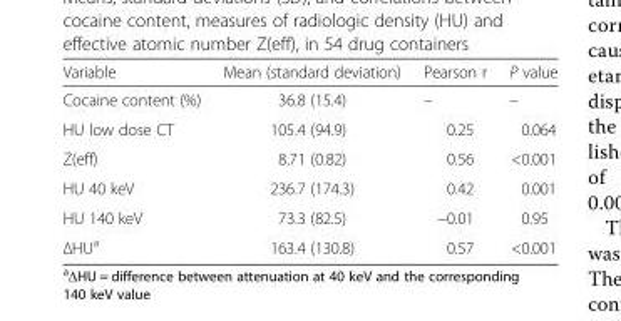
<table><thead><tr><td>Variable</td><td>Mean (standard deviation)</td><td>Pearson r</td><td>P value</td></tr></thead><tbody><tr><td>Cocaine content (%)</td><td>36.8 (15.4)</td><td>–</td><td>–</td></tr><tr><td>HU low dose CT</td><td>105.4 (94.9)</td><td>0.25</td><td>0.064</td></tr><tr><td>Z(eff)</td><td>8.71 (0.82)</td><td>0.56</td><td>&lt;0.001</td></tr><tr><td>HU 40 keV</td><td>236.7 (174.3)</td><td>0.42</td><td>0.001</td></tr><tr><td>HU 140 keV</td><td>73.3 (82.5)</td><td>−0.01</td><td>0.95</td></tr><tr><td>ΔHUa</td><td>163.4 (130.8)</td><td>0.57</td><td>&lt;0.001</td></tr></tbody></table>